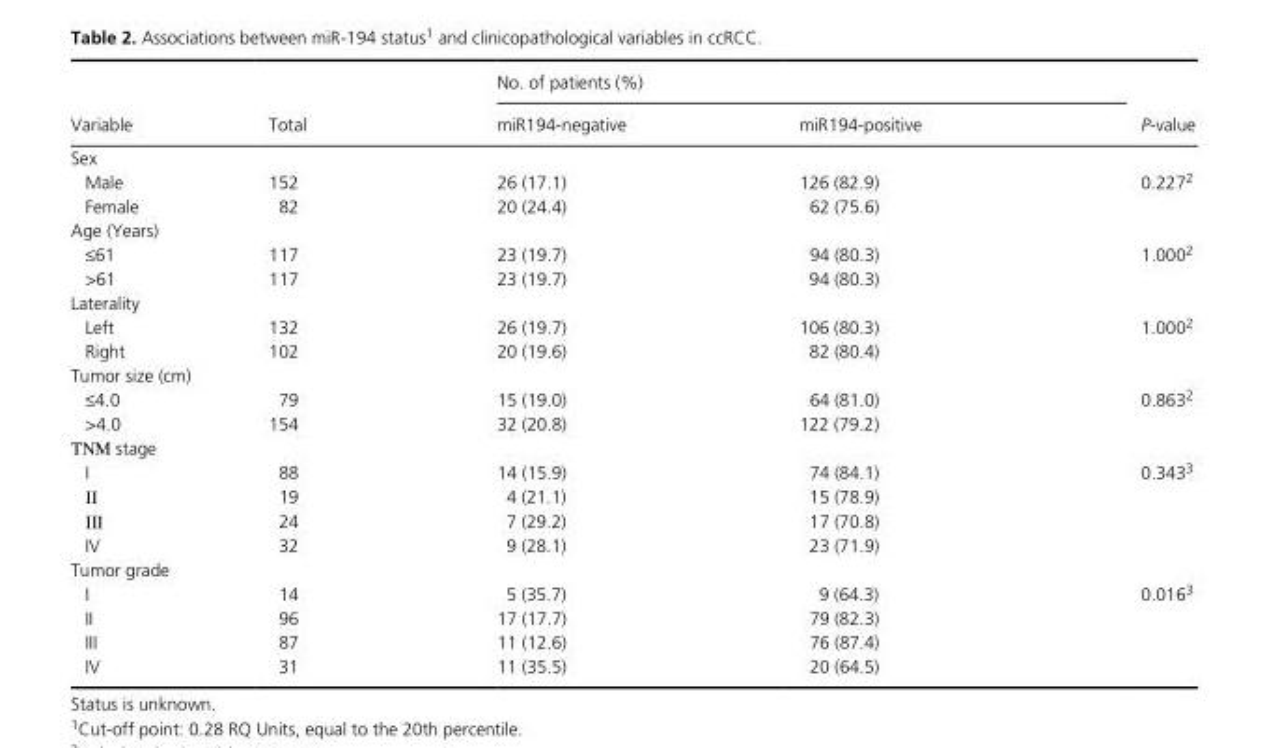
<table><thead><tr><td rowspan="2">Variable</td><td rowspan="2">Total</td><td colspan="2">No. of patients (%)</td><td rowspan="2">P- value</td></tr><tr><td>miR194- negative</td><td>miR194- positive</td></tr></thead><tbody><tr><td colspan="5">Sex</td></tr><tr><td>Male</td><td>152</td><td>26 (17.1)</td><td>126 (82.9)</td><td>0.2272</td></tr><tr><td>Female</td><td>82</td><td>20 (24.4)</td><td>62 (75.6)</td><td></td></tr><tr><td colspan="5">Age (Years)</td></tr><tr><td>≤61</td><td>117</td><td>23 (19.7)</td><td>94 (80.3)</td><td>1.0002</td></tr><tr><td>&gt;61</td><td>117</td><td>23 (19.7)</td><td>94 (80.3)</td><td></td></tr><tr><td colspan="5">Laterality</td></tr><tr><td>Left</td><td>132</td><td>26 (19.7)</td><td>106 (80.3)</td><td>1.0002</td></tr><tr><td>Right</td><td>102</td><td>20 (19.6)</td><td>82 (80.4)</td><td></td></tr><tr><td colspan="5">Tumor size (cm)</td></tr><tr><td>≤4.0</td><td>79</td><td>15 (19.0)</td><td>64 (81.0)</td><td>0.8632</td></tr><tr><td>&gt;4.0</td><td>154</td><td>32 (20.8)</td><td>122 (79.2)</td><td></td></tr><tr><td colspan="5">ΤΝΜ stage</td></tr><tr><td>I</td><td>88</td><td>14 (15.9)</td><td>74 (84.1)</td><td>0.3433</td></tr><tr><td>ΙΙ</td><td>19</td><td>4 (21.1)</td><td>15 (78.9)</td><td></td></tr><tr><td>ΙΙΙ</td><td>24</td><td>7 (29.2)</td><td>17 (70.8)</td><td></td></tr><tr><td>IV</td><td>32</td><td>9 (28.1)</td><td>23 (71.9)</td><td></td></tr><tr><td colspan="5">Tumor grade</td></tr><tr><td>I</td><td>14</td><td>5 (35.7)</td><td>9 (64.3)</td><td>0.0163</td></tr><tr><td>II</td><td>96</td><td>17 (17.7)</td><td>79 (82.3)</td><td></td></tr><tr><td>III</td><td>87</td><td>11 (12.6)</td><td>76 (87.4)</td><td></td></tr><tr><td>IV</td><td>31</td><td>11 (35.5)</td><td>20 (64.5)</td><td></td></tr></tbody></table>